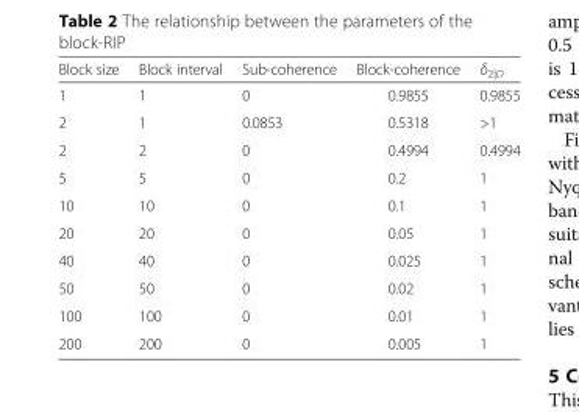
<table><thead><tr><td>Block size</td><td>Block interval</td><td>Sub-coherence</td><td>Block-coherence</td><td>δ<sub>2|D</sub></td></tr></thead><tbody><tr><td>1</td><td>1</td><td>0</td><td>0.9855</td><td>0.9855</td></tr><tr><td>2</td><td>1</td><td>0.0853</td><td>0.5318</td><td>&gt;1</td></tr><tr><td>2</td><td>2</td><td>0</td><td>0.4994</td><td>0.4994</td></tr><tr><td>5</td><td>5</td><td>0</td><td>0.2</td><td>1</td></tr><tr><td>10</td><td>10</td><td>0</td><td>0.1</td><td>1</td></tr><tr><td>20</td><td>20</td><td>0</td><td>0.05</td><td>1</td></tr><tr><td>40</td><td>40</td><td>0</td><td>0.025</td><td>1</td></tr><tr><td>50</td><td>50</td><td>0</td><td>0.02</td><td>1</td></tr><tr><td>100</td><td>100</td><td>0</td><td>0.01</td><td>1</td></tr><tr><td>200</td><td>200</td><td>0</td><td>0.005</td><td>1</td></tr></tbody></table>